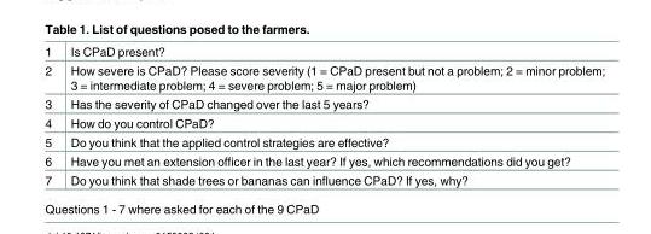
<table><tbody><tr><td>1</td><td>Is CPaD present?</td></tr><tr><td>2</td><td>How severe is CPaD? Please score severity (1 = CPaD present but not a problem; 2 = minor problem; 3 = intermediate problem; 4 = severe problem; 5 = major problem)</td></tr><tr><td>3</td><td>Has the severity of CPaD changed over the last 5 years?</td></tr><tr><td>4</td><td>How do you control CPaD?</td></tr><tr><td>5</td><td>Do you think that the applied control strategies are effective?</td></tr><tr><td>6</td><td>Have you met an extension officer in the last year? If yes, which recommendations did you get?</td></tr><tr><td>7</td><td>Do you think that shade trees or bananas can influence CPaD? If yes, why?</td></tr></tbody></table>